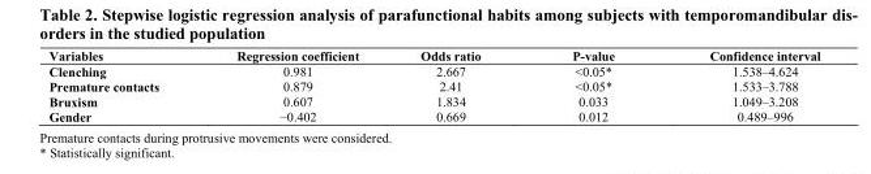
<table><tbody><tr><td>Variables</td><td>Regression coefficient</td><td>Odds ratio</td><td>P-value</td><td>Confidence interval</td></tr><tr><td>Clenching</td><td>0.981</td><td>2.667</td><td>&lt;0.05*</td><td>1.538–4.624</td></tr><tr><td>Premature contacts</td><td>0.879</td><td>2.41</td><td>&lt;0.05*</td><td>1.533–3.788</td></tr><tr><td>Bruxism</td><td>0.607</td><td>1.834</td><td>0.033</td><td>1.049–3.208</td></tr><tr><td>Gender</td><td>−0.402</td><td>0.669</td><td>0.012</td><td>0.489–996</td></tr></tbody></table>